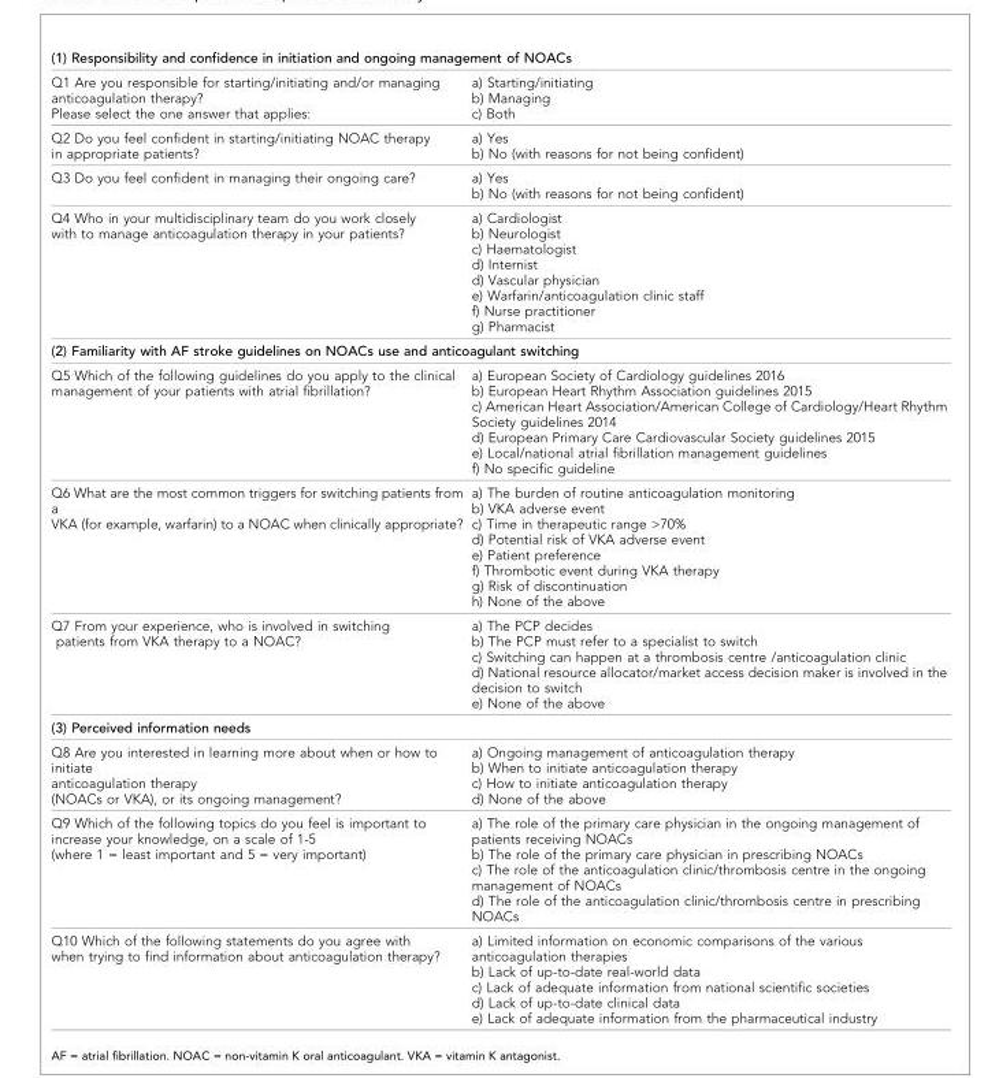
<table><tbody><tr><td colspan="2">(1) Responsibility and confidence in initiation and ongoing management of NOACs</td></tr><tr><td>Q1 Are you responsible for starting/initiating and/or managing anticoagulation therapy? Please select the one answer that applies:</td><td>a) Starting/initiating b) Managing c) Both</td></tr><tr><td>Q2 Do you feel confident in starting/initiating NOAC therapy in appropriate patients?</td><td>a) Yes b) No (with reasons for not being confident)</td></tr><tr><td>Q3 Do you feel confident in managing their ongoing care?</td><td>a) Yes b) No (with reasons for not being confident)</td></tr><tr><td>Q4 Who in your multidisciplinary team do you work closely with to manage anticoagulation therapy in your patients?</td><td>a) Cardiologist b) Neurologist c) Haematologist d) Internist d) Vascular physician e) Warfarin/anticoagulation clinic staff f) Nurse practitioner g) Pharmacist</td></tr><tr><td colspan="2">(2) Familiarity with AF stroke guidelines on NOACs use and anticoagulant switching</td></tr><tr><td>Q5 Which of the following guidelines do you apply to the clinical management of your patients with atrial fibrillation?</td><td>a) European Society of Cardiology guidelines 2016 b) European Heart Rhythm Association guidelines 2015 c) American Heart Association/American College of Cardiology/Heart Rhythm Society guidelines 2014 d) European Primary Care Cardiovascular Society guidelines 2015 e) Local/national atrial fibrillation management guidelines f) No specific guideline</td></tr><tr><td>Q6 What are the most common triggers for switching patients from a VKA (for example, warfarin) to a NOAC when clinically appropriate?</td><td>a) The burden of routine anticoagulation monitoring b) VKA adverse event c) Time in therapeutic range &gt;70% d) Potential risk of VKA adverse event e) Patient preference f) Thrombotic event during VKA therapy g) Risk of discontinuation h) None of the above</td></tr><tr><td>Q7 From your experience, who is involved in switching patients from VKA therapy to a NOAC?</td><td>a) The PCP decides b) The PCP must refer to a specialist to switch c) Switching can happen at a thrombosis centre /anticoagulation clinic d) National resource allocator/market access decision maker is involved in the decision to switch e) None of the above</td></tr><tr><td colspan="2">(3) Perceived information needs</td></tr><tr><td>Q8 Are you interested in learning more about when or how to initiate anticoagulation therapy (NOACs or VKA), or its ongoing management?</td><td>a) Ongoing management of anticoagulation therapy b) When to initiate anticoagulation therapy c) How to initiate anticoagulation therapy d) None of the above</td></tr><tr><td>Q9 Which of the following topics do you feel is important to increase your knowledge, on a scale of 1-5 (where 1 = least important and 5 = very important)</td><td>a) The role of the primary care physician in the ongoing management of patients receiving NOACs b) The role of the primary care physician in prescribing NOACs c) The role of the anticoagulation clinic/thrombosis centre in the ongoing management of NOACs d) The role of the anticoagulation clinic/thrombosis centre in prescribing NOACs</td></tr><tr><td>Q10 Which of the following statements do you agree with when trying to find information about anticoagulation therapy?</td><td>a) Limited information on economic comparisons of the various anticoagulation therapies b) Lack of up-to-date real-world data c) Lack of adequate information from national scientific societies d) Lack of up-to-date clinical data e) Lack of adequate information from the pharmaceutical industry</td></tr></tbody></table>